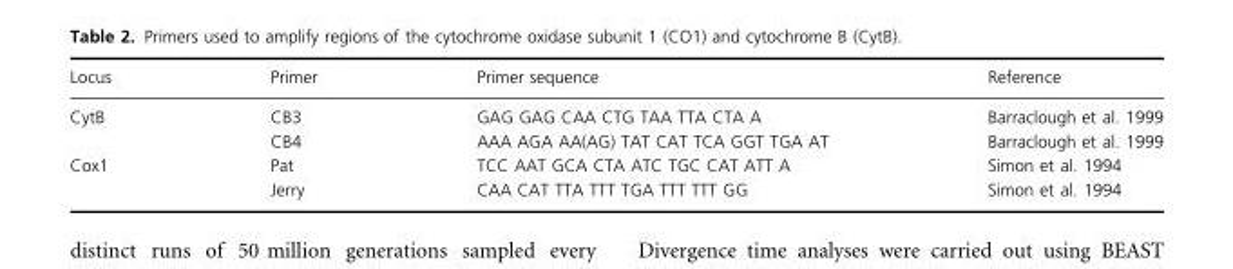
<table><thead><tr><td>Locus</td><td>Primer</td><td>Primer sequence</td><td>Reference</td></tr></thead><tbody><tr><td rowspan="2">CytB</td><td>CB3</td><td>GAG GAG CAA CTG TAA TTA CTA A</td><td>Barraclough et al. 1999</td></tr><tr><td>CB4</td><td>AAA AGA AA(AG) TAT CAT TCA GGT TGA AT</td><td>Barraclough et al. 1999</td></tr><tr><td rowspan="2">Cox1</td><td>Pat</td><td>TCC AAT GCA CTA ATC TGC CAT ATT A</td><td>Simon et al. 1994</td></tr><tr><td>Jerry</td><td>CAA CAT TTA TTT TGA TTT TTT GG</td><td>Simon et al. 1994</td></tr></tbody></table>